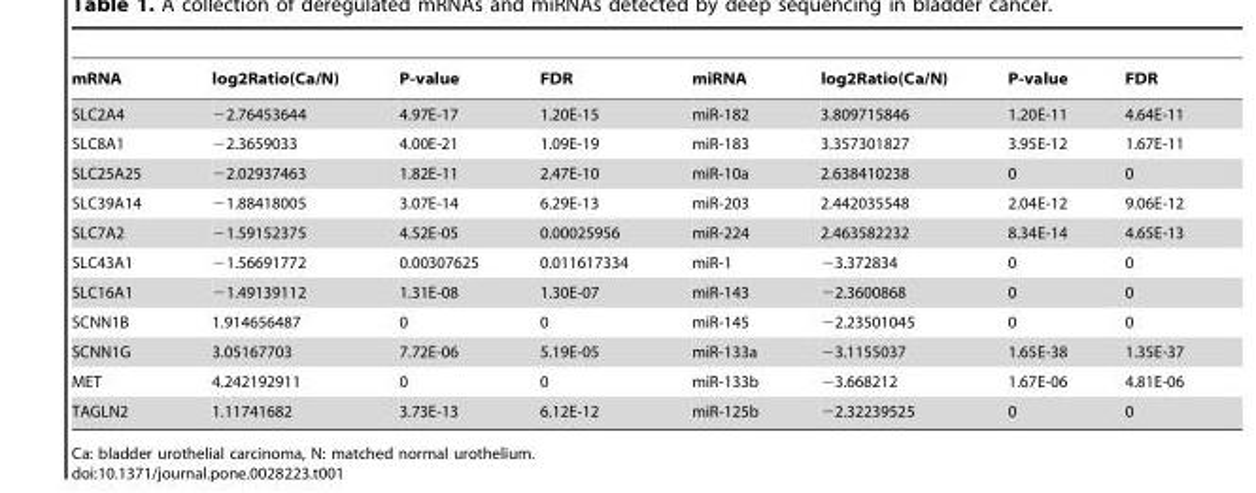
<table><thead><tr><td>mRNA</td><td>log2Ratio(Ca/N)</td><td>P-value</td><td>FDR</td><td>miRNA</td><td>log2Ratio(Ca/N)</td><td>P-value</td><td>FDR</td></tr></thead><tbody><tr><td>SLC2A4</td><td>−2.76453644</td><td>4.97E-17</td><td>1.20E-15</td><td>miR-182</td><td>3.809715846</td><td>1.20E-11</td><td>4.64E-11</td></tr><tr><td>SLC8A1</td><td>−2.3659033</td><td>4.00E-21</td><td>1.09E-19</td><td>miR-183</td><td>3.357301827</td><td>3.95E-12</td><td>1.67E-11</td></tr><tr><td>SLC25A25</td><td>−2.02937463</td><td>1.82E-11</td><td>2.47E-10</td><td>miR-10a</td><td>2.638410238</td><td>0</td><td>0</td></tr><tr><td>SLC39A14</td><td>−1.88418005</td><td>3.07E-14</td><td>6.29E-13</td><td>miR-203</td><td>2.442035548</td><td>2.04E-12</td><td>9.06E-12</td></tr><tr><td>SLC7A2</td><td>−1.59152375</td><td>4.52E-05</td><td>0.00025956</td><td>miR-224</td><td>2.463582232</td><td>8.34E-14</td><td>4.65E-13</td></tr><tr><td>SLC43A1</td><td>−1.56691772</td><td>0.00307625</td><td>0.011617334</td><td>miR-1</td><td>−3.372834</td><td>0</td><td>0</td></tr><tr><td>SLC16A1</td><td>−1.49139112</td><td>1.31E-08</td><td>1.30E-07</td><td>miR-143</td><td>−2.3600868</td><td>0</td><td>0</td></tr><tr><td>SCNN1B</td><td>1.914656487</td><td>0</td><td>0</td><td>miR-145</td><td>−2.23501045</td><td>0</td><td>0</td></tr><tr><td>SCNN1G</td><td>3.05167703</td><td>7.72E-06</td><td>5.19E-05</td><td>miR-133a</td><td>−3.1155037</td><td>1.65E-38</td><td>1.35E-37</td></tr><tr><td>MET</td><td>4.242192911</td><td>0</td><td>0</td><td>miR-133b</td><td>−3.668212</td><td>1.67E-06</td><td>4.81E-06</td></tr><tr><td>TAGLN2</td><td>1.11741682</td><td>3.73E-13</td><td>6.12E-12</td><td>miR-125b</td><td>−2.32239525</td><td>0</td><td>0</td></tr></tbody></table>